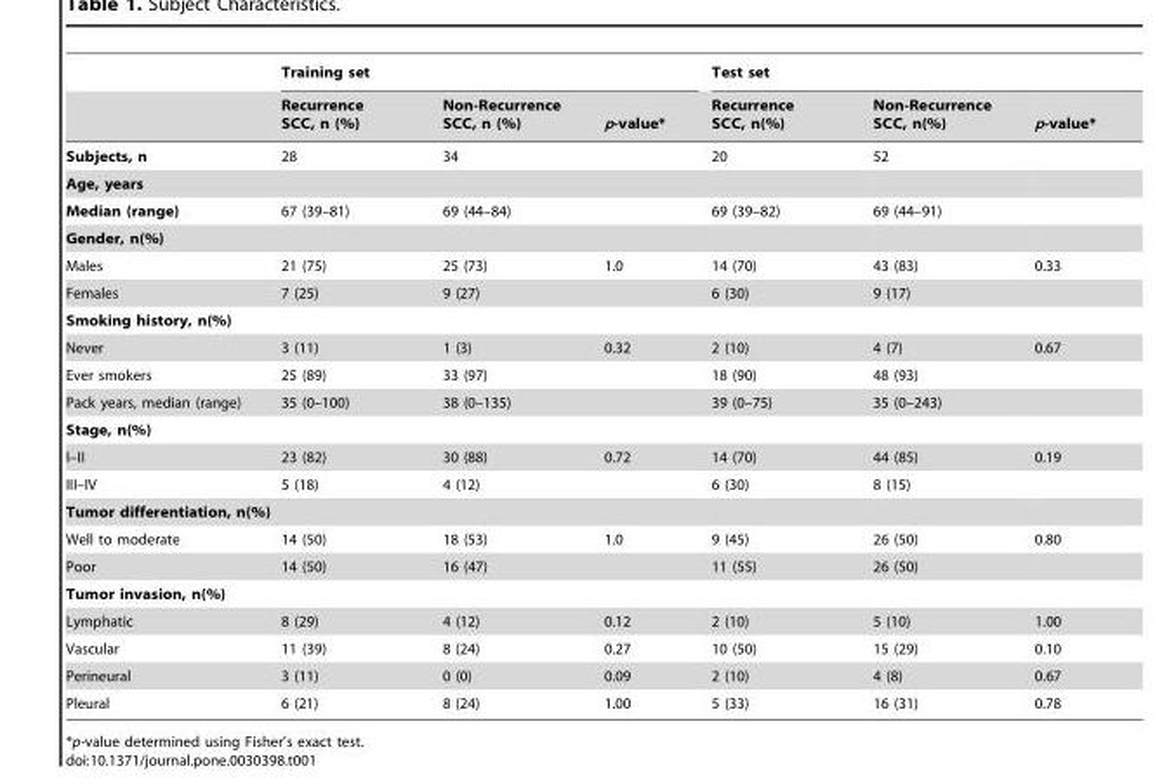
<table><thead><tr><td rowspan="2"></td><td colspan="3">Training set</td><td colspan="3">Test set</td></tr><tr><td>Recurrence SCC, n (%)</td><td>Non-Recurrence SCC, n (%)</td><td>p-value*</td><td>Recurrence SCC, n(%)</td><td>Non-Recurrence SCC, n(%)</td><td>p-value*</td></tr></thead><tbody><tr><td>Subjects, n</td><td>28</td><td>34</td><td></td><td>20</td><td>52</td><td></td></tr><tr><td colspan="7">Age, years</td></tr><tr><td>Median (range)</td><td>67 (39–81)</td><td>69 (44–84)</td><td></td><td>69 (39–82)</td><td>69 (44–91)</td><td></td></tr><tr><td colspan="7">Gender, n(%)</td></tr><tr><td>Males</td><td>21 (75)</td><td>25 (73)</td><td>1.0</td><td>14 (70)</td><td>43 (83)</td><td>0.33</td></tr><tr><td>Females</td><td>7 (25)</td><td>9 (27)</td><td></td><td>6 (30)</td><td>9 (17)</td><td></td></tr><tr><td colspan="7">Smoking history, n(%)</td></tr><tr><td>Never</td><td>3 (11)</td><td>1 (3)</td><td>0.32</td><td>2 (10)</td><td>4 (7)</td><td>0.67</td></tr><tr><td>Ever smokers</td><td>25 (89)</td><td>33 (97)</td><td></td><td>18 (90)</td><td>48 (93)</td><td></td></tr><tr><td>Pack years, median (range)</td><td>35 (0–100)</td><td>38 (0–135)</td><td></td><td>39 (0–75)</td><td>35 (0–243)</td><td></td></tr><tr><td colspan="7">Stage, n(%)</td></tr><tr><td>I–II</td><td>23 (82)</td><td>30 (88)</td><td>0.72</td><td>14 (70)</td><td>44 (85)</td><td>0.19</td></tr><tr><td>III–IV</td><td>5 (18)</td><td>4 (12)</td><td></td><td>6 (30)</td><td>8 (15)</td><td></td></tr><tr><td colspan="7">Tumor differentiation, n(%)</td></tr><tr><td>Well to moderate</td><td>14 (50)</td><td>18 (53)</td><td>1.0</td><td>9 (45)</td><td>26 (50)</td><td>0.80</td></tr><tr><td>Poor</td><td>14 (50)</td><td>16 (47)</td><td></td><td>11 (55)</td><td>26 (50)</td><td></td></tr><tr><td colspan="7">Tumor invasion, n(%)</td></tr><tr><td>Lymphatic</td><td>8 (29)</td><td>4 (12)</td><td>0.12</td><td>2 (10)</td><td>5 (10)</td><td>1.00</td></tr><tr><td>Vascular</td><td>11 (39)</td><td>8 (24)</td><td>0.27</td><td>10 (50)</td><td>15 (29)</td><td>0.10</td></tr><tr><td>Perineural</td><td>3 (11)</td><td>0 (0)</td><td>0.09</td><td>2 (10)</td><td>4 (8)</td><td>0.67</td></tr><tr><td>Pleural</td><td>6 (21)</td><td>8 (24)</td><td>1.00</td><td>5 (33)</td><td>16 (31)</td><td>0.78</td></tr></tbody></table>